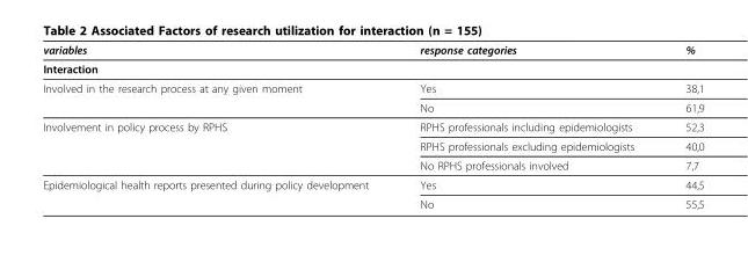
<table><thead><tr><td>variables</td><td>response categories</td><td>%</td></tr></thead><tbody><tr><td colspan="3">Interaction</td></tr><tr><td rowspan="2">Involved in the research process at any given moment</td><td>Yes</td><td>38,1</td></tr><tr><td>No</td><td>61,9</td></tr><tr><td rowspan="3">Involvement in policy process by RPHS</td><td>RPHS professionals including epidemiologists</td><td>52,3</td></tr><tr><td>RPHS professionals excluding epidemiologists</td><td>40,0</td></tr><tr><td>No RPHS professionals involved</td><td>7,7</td></tr><tr><td rowspan="2">Epidemiological health reports presented during policy development</td><td>Yes</td><td>44,5</td></tr><tr><td>No</td><td>55,5</td></tr></tbody></table>